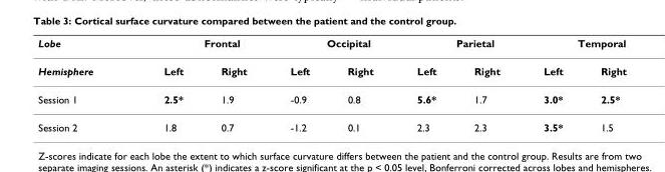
<table><thead><tr><td rowspan="2">Lobe Hemisphere</td><td colspan="2">Frontal</td><td colspan="2">Occipital</td><td colspan="2">Parietal</td><td colspan="2">Temporal</td></tr><tr><td>Left</td><td>Right</td><td>Left</td><td>Right</td><td>Left</td><td>Right</td><td>Left</td><td>Right</td></tr></thead><tbody><tr><td>Session 1</td><td>2.5*</td><td>1.9</td><td>-0.9</td><td>0.8</td><td>5.6*</td><td>1.7</td><td>3.0*</td><td>2.5*</td></tr><tr><td>Session 2</td><td>1.8</td><td>0.7</td><td>-1.2</td><td>0.1</td><td>2.3</td><td>2.3</td><td>3.5*</td><td>1.5</td></tr></tbody></table>